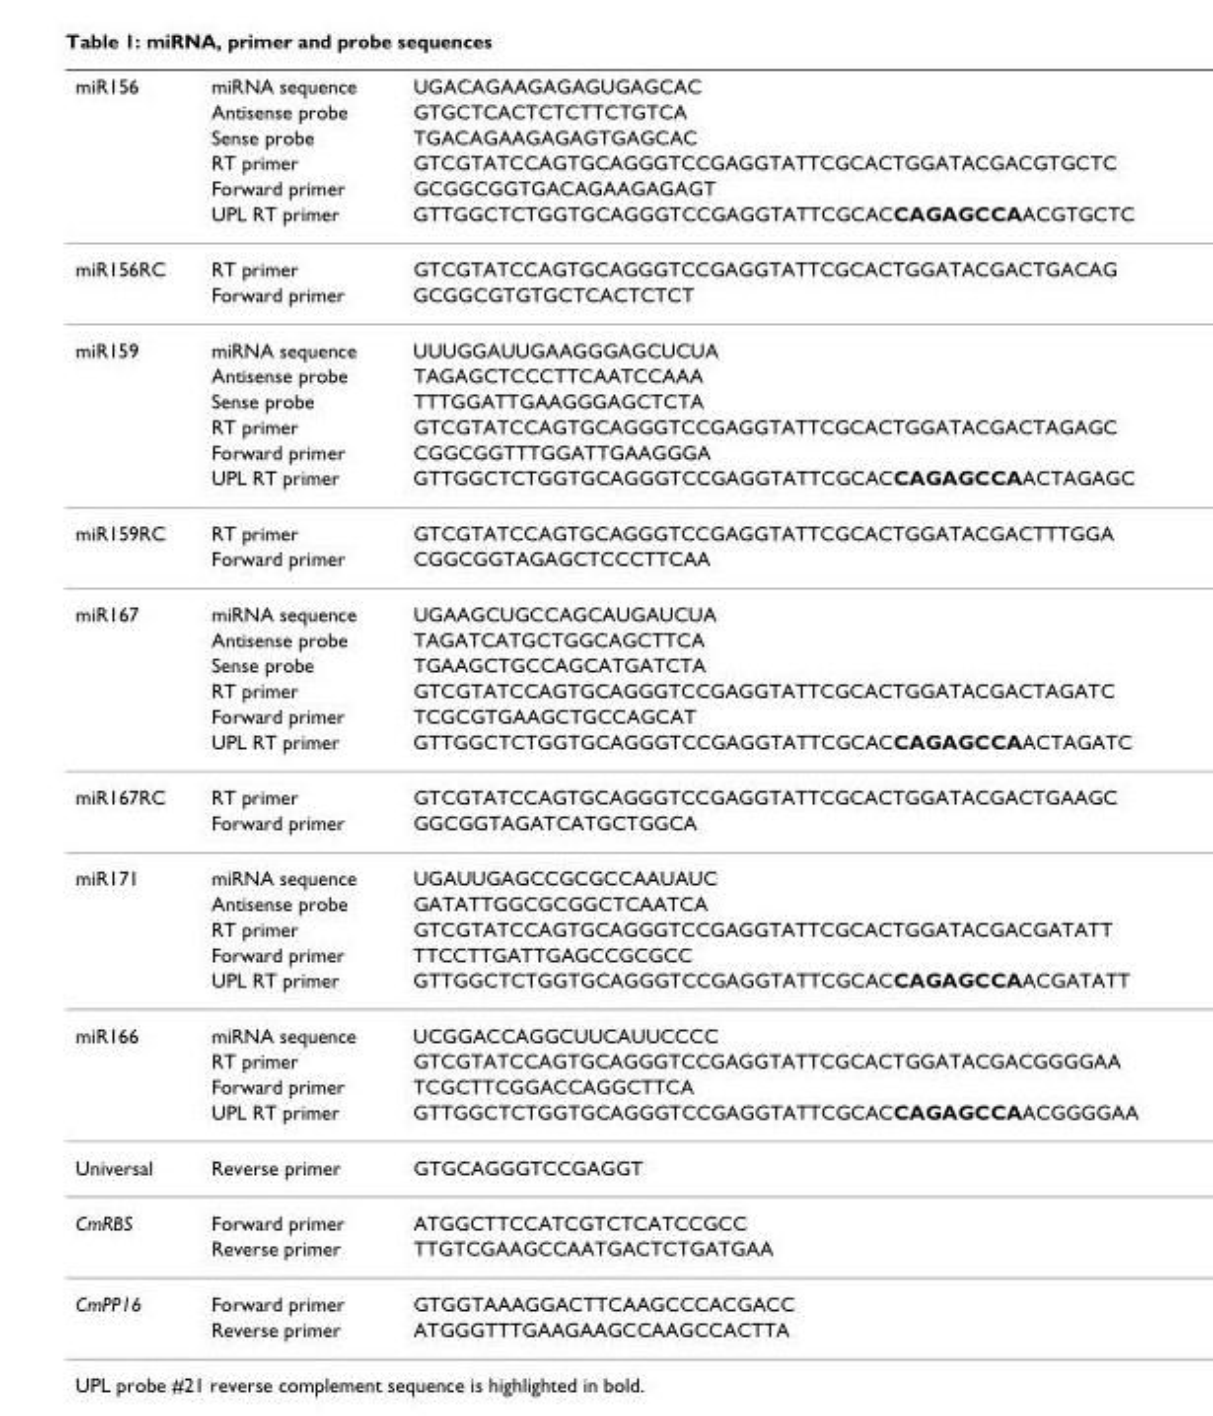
<table><thead><tr><td rowspan="6">miR156</td><td rowspan="6">miRNA sequence Antisense probe Sense probe RT primer Forward primer UPL RT primer</td><td rowspan="6">UGACAGAAGAGAGUGAGCAC GTGCTCACTCTCTTCTGTCA TGACAGAAGAGAGTGAGCAC GTCGTATCCAGTGCAGGGTCCGAGGTATTCGCACTGGATACGACGTGCTC GCGGCGGTGACAGAAGAGAGT GTTGGCTCTGGTGCAGGGTCCGAGGTATTCGCACCAGAGCCAACGTGCTC</td></tr><tr></tr><tr></tr><tr></tr><tr></tr><tr></tr></thead><tbody><tr><td rowspan="2">miR156RC</td><td>RT primer</td><td>GTCGTATCCAGTGCAGGGTCCGAGGTATTCGCACTGGATACGACTGACAG</td></tr><tr><td>Forward primer</td><td>GCGGCGTGTGCTCACTCTCT</td></tr><tr><td rowspan="6">miR159</td><td>miRNA sequence</td><td>UUUGGAUUGAAGGGAGCUCUA</td></tr><tr><td>Antisense probe</td><td>TAGAGCTCCCTTCAATCCAAA</td></tr><tr><td>Sense probe</td><td>TTTGGATTGAAGGGAGCTCTA</td></tr><tr><td>RT primer</td><td>GTCGTATCCAGTGCAGGGTCCGAGGTATTCGCACTGGATACGACTAGAGC</td></tr><tr><td>Forward primer</td><td>CGGCGGTTTGGATTGAAGGGA</td></tr><tr><td>UPL RT primer</td><td>GTTGGCTCTGGTGCAGGGTCCGAGGTATTCGCACCAGAGCCAACTAGAGC</td></tr><tr><td rowspan="2">miR159RC</td><td>RT primer</td><td>GTCGTATCCAGTGCAGGGTCCGAGGTATTCGCACTGGATACGACTTTGGA</td></tr><tr><td>Forward primer</td><td>CGGCGGTAGAGCTCCCTTCAA</td></tr><tr><td rowspan="6">miR167</td><td>miRNA sequence</td><td>UGAAGCUGCCAGCAUGAUCUA</td></tr><tr><td>Antisense probe</td><td>TAGATCATGCTGGCAGCTTCA</td></tr><tr><td>Sense probe</td><td>TGAAGCTGCCAGCATGATCTA</td></tr><tr><td>RT primer</td><td>GTCGTATCCAGTGCAGGGTCCGAGGTATTCGCACTGGATACGACTAGATC</td></tr><tr><td>Forward primer</td><td>TCGCGTGAAGCTGCCAGCAT</td></tr><tr><td>UPL RT primer</td><td>GTTGGCTCTGGTGCAGGGTCCGAGGTATTCGCACCAGAGCCAACTAGATC</td></tr><tr><td rowspan="2">miR167RC</td><td>RT primer</td><td>GTCGTATCCAGTGCAGGGTCCGAGGTATTCGCACTGGATACGACTGAAGC</td></tr><tr><td>Forward primer</td><td>GGCGGTAGATCATGCTGGCA</td></tr><tr><td rowspan="5">miR171</td><td>miRNA sequence</td><td>UGAUUGAGCCGCGCCAAUAUC</td></tr><tr><td>Antisense probe</td><td>GATATTGGCGCGGCTCAATCA</td></tr><tr><td>RT primer</td><td>GTCGTATCCAGTGCAGGGTCCGAGGTATTCGCACTGGATACGACGATATT</td></tr><tr><td>Forward primer</td><td>TTCCTTGATTGAGCCGCGCC</td></tr><tr><td>UPL RT primer</td><td>GTTGGCTCTGGTGCAGGGTCCGAGGTATTCGCACCAGAGCCAACGATATT</td></tr><tr><td rowspan="4">miR166</td><td>miRNA sequence</td><td>UCGGACCAGGCUUCAUUCCCC</td></tr><tr><td>RT primer</td><td>GTCGTATCCAGTGCAGGGTCCGAGGTATTCGCACTGGATACGACGGGGAA</td></tr><tr><td>Forward primer</td><td>TCGCTTCGGACCAGGCTTCA</td></tr><tr><td>UPL RT primer</td><td>GTTGGCTCTGGTGCAGGGTCCGAGGTATTCGCACCAGAGCCAACGGGGAA</td></tr><tr><td>Universal</td><td>Reverse primer</td><td>GTGCAGGGTCCGAGGT</td></tr><tr><td rowspan="2">CmRBS</td><td>Forward primer</td><td>ATGGCTTCCATCGTCTCATCCGCC</td></tr><tr><td>Reverse primer</td><td>TTGTCGAAGCCAATGACTCTGATGAA</td></tr><tr><td rowspan="2">CmPP16</td><td>Forward primer</td><td>GTGGTAAAGGACTTCAAGCCCACGACC</td></tr><tr><td>Reverse primer</td><td>ATGGGTTTGAAGAAGCCAAGCCACTTA</td></tr></tbody></table>